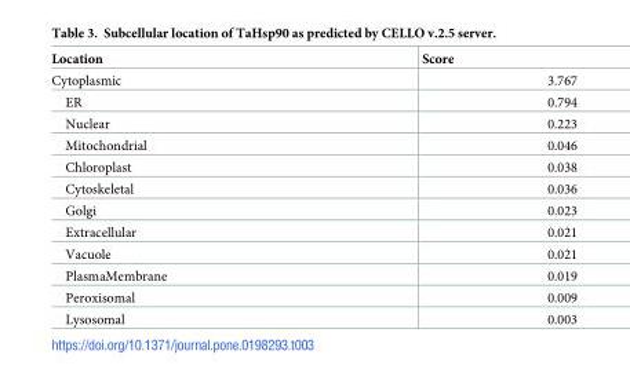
<table><thead><tr><td>Location</td><td>Score</td></tr></thead><tbody><tr><td>Cytoplasmic</td><td>3.767</td></tr><tr><td>ER</td><td>0.794</td></tr><tr><td>Nuclear</td><td>0.223</td></tr><tr><td>Mitochondrial</td><td>0.046</td></tr><tr><td>Chloroplast</td><td>0.038</td></tr><tr><td>Cytoskeletal</td><td>0.036</td></tr><tr><td>Golgi</td><td>0.023</td></tr><tr><td>Extracellular</td><td>0.021</td></tr><tr><td>Vacuole</td><td>0.021</td></tr><tr><td>PlasmaMembrane</td><td>0.019</td></tr><tr><td>Peroxisomal</td><td>0.009</td></tr><tr><td>Lysosomal</td><td>0.003</td></tr></tbody></table>